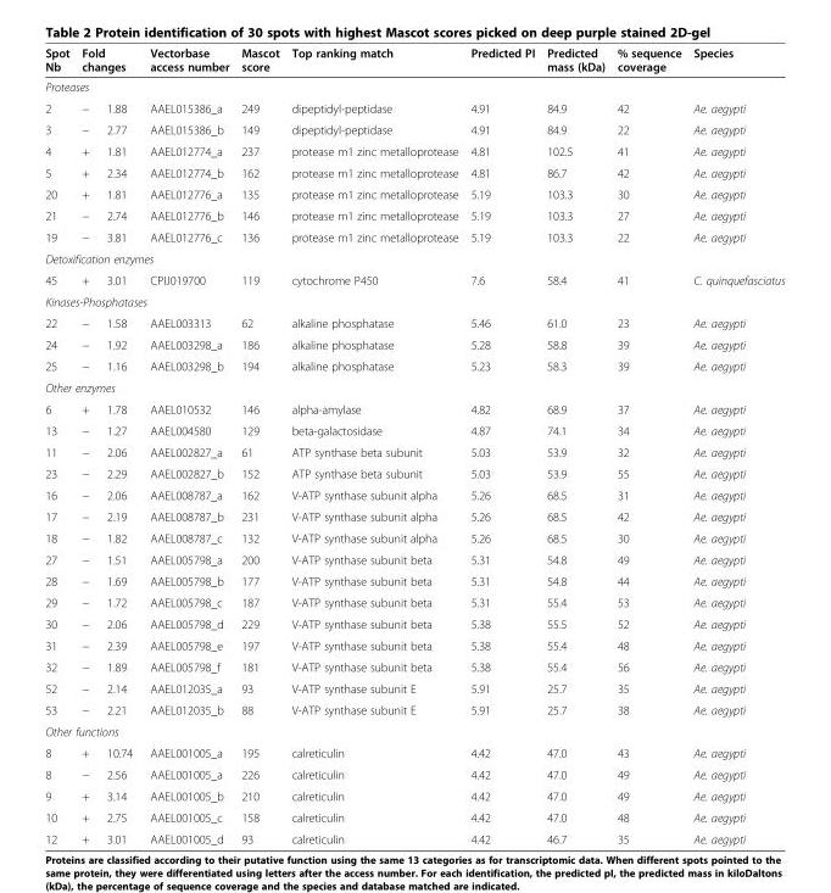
<table><thead><tr><td>Spot Nb</td><td colspan="2">Fold changes</td><td>Vectorbase access number</td><td>Mascot score</td><td>Top ranking match</td><td>Predicted PI</td><td>Predicted mass (kDa)</td><td>% sequence coverage</td><td>Species</td></tr><tr><td colspan="10">Proteases</td></tr><tr><td>2</td><td>−</td><td>1.88</td><td>AAEL015386_a</td><td>249</td><td>dipeptidyl-peptidase</td><td>4.91</td><td>84.9</td><td>42</td><td>Ae. aegypti</td></tr></thead><tbody><tr><td>3</td><td>−</td><td>2.77</td><td>AAEL015386_b</td><td>149</td><td>dipeptidyl-peptidase</td><td>4.91</td><td>84.9</td><td>22</td><td>Ae. aegypti</td></tr><tr><td>4</td><td>+</td><td>1.81</td><td>AAEL012774_a</td><td>237</td><td>protease m1 zinc metalloprotease</td><td>4.81</td><td>102.5</td><td>41</td><td>Ae. aegypti</td></tr><tr><td>5</td><td>+</td><td>2.34</td><td>AAEL012774_b</td><td>162</td><td>protease m1 zinc metalloprotease</td><td>4.81</td><td>86.7</td><td>42</td><td>Ae. aegypti</td></tr><tr><td>20</td><td>+</td><td>1.81</td><td>AAEL012776_a</td><td>135</td><td>protease m1 zinc metalloprotease</td><td>5.19</td><td>103.3</td><td>30</td><td>Ae. aegypti</td></tr><tr><td>21</td><td>−</td><td>2.74</td><td>AAEL012776_b</td><td>146</td><td>protease m1 zinc metalloprotease</td><td>5.19</td><td>103.3</td><td>27</td><td>Ae. aegypti</td></tr><tr><td>19</td><td>−</td><td>3.81</td><td>AAEL012776_c</td><td>136</td><td>protease m1 zinc metalloprotease</td><td>5.19</td><td>103.3</td><td>22</td><td>Ae. aegypti</td></tr><tr><td colspan="10">Detoxification enzymes</td></tr><tr><td>45</td><td>+</td><td>3.01</td><td>CPIJ019700</td><td>119</td><td>cytochrome P450</td><td>7.6</td><td>58.4</td><td>41</td><td>C. quinquefasciatus</td></tr><tr><td colspan="10">Kinases-Phosphatases</td></tr><tr><td>22</td><td>−</td><td>1.58</td><td>AAEL003313</td><td>62</td><td>alkaline phosphatase</td><td>5.46</td><td>61.0</td><td>23</td><td>Ae. aegypti</td></tr><tr><td>24</td><td>−</td><td>1.92</td><td>AAEL003298_a</td><td>186</td><td>alkaline phosphatase</td><td>5.28</td><td>58.8</td><td>39</td><td>Ae. aegypti</td></tr><tr><td>25</td><td>−</td><td>1.16</td><td>AAEL003298_b</td><td>194</td><td>alkaline phosphatase</td><td>5.23</td><td>58.3</td><td>39</td><td>Ae. aegypti</td></tr><tr><td colspan="10">Other enzymes</td></tr><tr><td>6</td><td>+</td><td>1.78</td><td>AAEL010532</td><td>146</td><td>alpha-amylase</td><td>4.82</td><td>68.9</td><td>37</td><td>Ae. aegypti</td></tr><tr><td>13</td><td>−</td><td>1.27</td><td>AAEL004580</td><td>129</td><td>beta-galactosidase</td><td>4.87</td><td>74.1</td><td>34</td><td>Ae. aegypti</td></tr><tr><td>11</td><td>−</td><td>2.06</td><td>AAEL002827_a</td><td>61</td><td>ATP synthase beta subunit</td><td>5.03</td><td>53.9</td><td>32</td><td>Ae. aegypti</td></tr><tr><td>23</td><td>−</td><td>2.29</td><td>AAEL002827_b</td><td>152</td><td>ATP synthase beta subunit</td><td>5.03</td><td>53.9</td><td>55</td><td>Ae. aegypti</td></tr><tr><td>16</td><td>−</td><td>2.06</td><td>AAEL008787_a</td><td>162</td><td>V-ATP synthase subunit alpha</td><td>5.26</td><td>68.5</td><td>31</td><td>Ae. aegypti</td></tr><tr><td>17</td><td>−</td><td>2.19</td><td>AAEL008787_b</td><td>231</td><td>V-ATP synthase subunit alpha</td><td>5.26</td><td>68.5</td><td>42</td><td>Ae. aegypti</td></tr><tr><td>18</td><td>−</td><td>1.82</td><td>AAEL008787_c</td><td>132</td><td>V-ATP synthase subunit alpha</td><td>5.26</td><td>68.5</td><td>30</td><td>Ae. aegypti</td></tr><tr><td>27</td><td>−</td><td>1.51</td><td>AAEL005798_a</td><td>200</td><td>V-ATP synthase subunit beta</td><td>5.31</td><td>54.8</td><td>49</td><td>Ae. aegypti</td></tr><tr><td>28</td><td>−</td><td>1.69</td><td>AAEL005798_b</td><td>177</td><td>V-ATP synthase subunit beta</td><td>5.31</td><td>54.8</td><td>44</td><td>Ae. aegypti</td></tr><tr><td>29</td><td>−</td><td>1.72</td><td>AAEL005798_c</td><td>187</td><td>V-ATP synthase subunit beta</td><td>5.31</td><td>55.4</td><td>53</td><td>Ae. aegypti</td></tr><tr><td>30</td><td>−</td><td>2.06</td><td>AAEL005798_d</td><td>229</td><td>V-ATP synthase subunit beta</td><td>5.38</td><td>55.5</td><td>52</td><td>Ae. aegypti</td></tr><tr><td>31</td><td>−</td><td>2.39</td><td>AAEL005798_e</td><td>197</td><td>V-ATP synthase subunit beta</td><td>5.38</td><td>55.4</td><td>48</td><td>Ae. aegypti</td></tr><tr><td>32</td><td>−</td><td>1.89</td><td>AAEL005798_f</td><td>181</td><td>V-ATP synthase subunit beta</td><td>5.38</td><td>55.4</td><td>56</td><td>Ae. aegypti</td></tr><tr><td>52</td><td>−</td><td>2.14</td><td>AAEL012035_a</td><td>93</td><td>V-ATP synthase subunit E</td><td>5.91</td><td>25.7</td><td>35</td><td>Ae. aegypti</td></tr><tr><td>53</td><td>−</td><td>2.21</td><td>AAEL012035_b</td><td>88</td><td>V-ATP synthase subunit E</td><td>5.91</td><td>25.7</td><td>38</td><td>Ae. aegypti</td></tr><tr><td colspan="10">Other functions</td></tr><tr><td>8</td><td>+</td><td>10.74</td><td>AAEL001005_a</td><td>195</td><td>calreticulin</td><td>4.42</td><td>47.0</td><td>43</td><td>Ae. aegypti</td></tr><tr><td>8</td><td>−</td><td>2.56</td><td>AAEL001005_a</td><td>226</td><td>calreticulin</td><td>4.42</td><td>47.0</td><td>49</td><td>Ae. aegypti</td></tr><tr><td>9</td><td>+</td><td>3.14</td><td>AAEL001005_b</td><td>210</td><td>calreticulin</td><td>4.42</td><td>47.0</td><td>49</td><td>Ae. aegypti</td></tr><tr><td>10</td><td>+</td><td>2.75</td><td>AAEL001005_c</td><td>158</td><td>calreticulin</td><td>4.42</td><td>47.0</td><td>48</td><td>Ae. aegypti</td></tr><tr><td>12</td><td>+</td><td>3.01</td><td>AAEL001005_d</td><td>93</td><td>calreticulin</td><td>4.42</td><td>46.7</td><td>35</td><td>Ae. aegypti</td></tr></tbody></table>